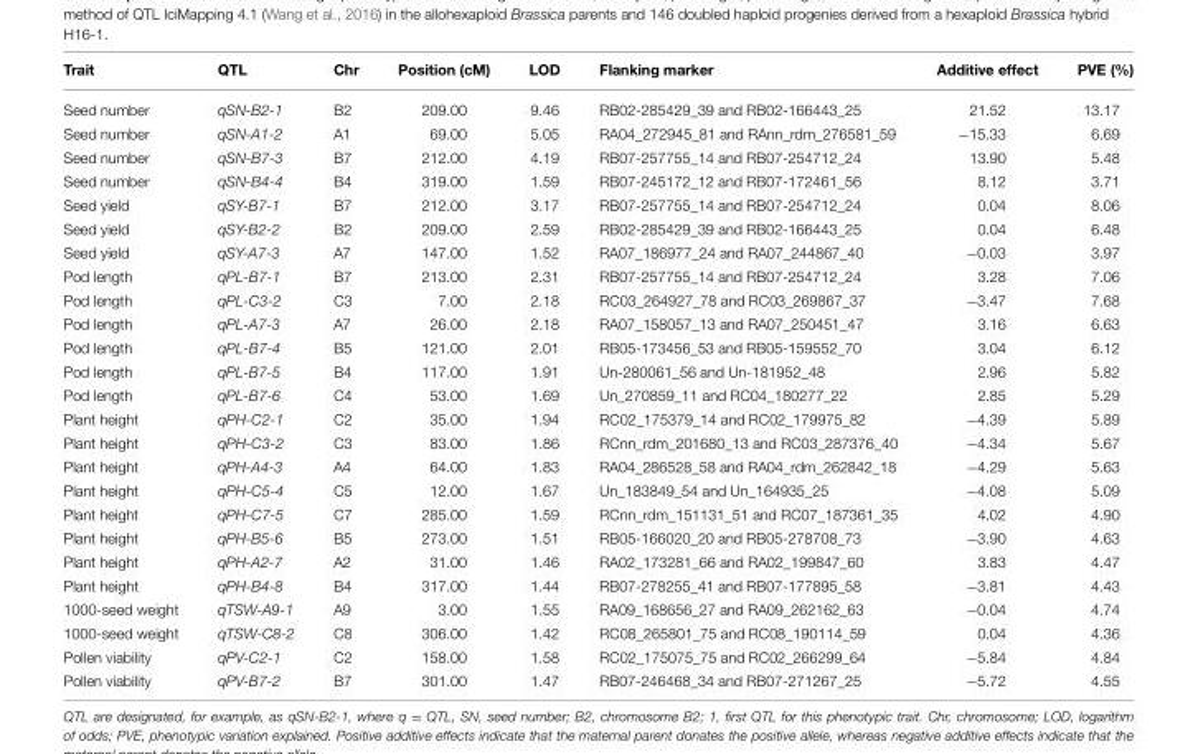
<table><thead><tr><td>Trait</td><td>QTL</td><td>Chr</td><td>Position (cM)</td><td>LOD</td><td>Flanking marker</td><td>Additive effect</td><td>PVE (%)</td></tr></thead><tbody><tr><td>Seed number</td><td>qSN-B2-1</td><td>B2</td><td>209.00</td><td>9.46</td><td>RB02-285429_39 and RB02-166443_25</td><td>21.52</td><td>13.17</td></tr><tr><td>Seed number</td><td>qSN-A1-2</td><td>A1</td><td>69.00</td><td>5.05</td><td>RA04_272945_81 and RAnn_rdm_276581_59</td><td>−15.33</td><td>6.69</td></tr><tr><td>Seed number</td><td>qSN-B7-3</td><td>B7</td><td>212.00</td><td>4.19</td><td>RB07-257755_14 and RB07-254712_24</td><td>13.90</td><td>5.48</td></tr><tr><td>Seed number</td><td>qSN-B4-4</td><td>B4</td><td>319.00</td><td>1.59</td><td>RB07-245172_12 and RB07-172461_56</td><td>8.12</td><td>3.71</td></tr><tr><td>Seed yield</td><td>qSY-B7-1</td><td>B7</td><td>212.00</td><td>3.17</td><td>RB07-257755_14 and RB07-254712_24</td><td>0.04</td><td>8.06</td></tr><tr><td>Seed yield</td><td>qSY-B2-2</td><td>B2</td><td>209.00</td><td>2.59</td><td>RB02-285429_39 and RB02-166443_25</td><td>0.04</td><td>6.48</td></tr><tr><td>Seed yield</td><td>qSY-A7-3</td><td>A7</td><td>147.00</td><td>1.52</td><td>RA07_186977_24 and RA07_244867_40</td><td>−0.03</td><td>3.97</td></tr><tr><td>Pod length</td><td>qPL-B7-1</td><td>B7</td><td>213.00</td><td>2.31</td><td>RB07-257755_14 and RB07-254712_24</td><td>3.28</td><td>7.06</td></tr><tr><td>Pod length</td><td>qPL-C3-2</td><td>C3</td><td>7.00</td><td>2.18</td><td>RC03_264927_78 and RC03_269867_37</td><td>−3.47</td><td>7.68</td></tr><tr><td>Pod length</td><td>qPL-A7-3</td><td>A7</td><td>26.00</td><td>2.18</td><td>RA07_158057_13 and RA07_250451_47</td><td>3.16</td><td>6.63</td></tr><tr><td>Pod length</td><td>qPL-B7-4</td><td>B5</td><td>121.00</td><td>2.01</td><td>RB05-173456_53 and RB05-159552_70</td><td>3.04</td><td>6.12</td></tr><tr><td>Pod length</td><td>qPL-B7-5</td><td>B4</td><td>117.00</td><td>1.91</td><td>Un-280061_56 and Un-181952_48</td><td>2.96</td><td>5.82</td></tr><tr><td>Pod length</td><td>qPL-B7-6</td><td>C4</td><td>53.00</td><td>1.69</td><td>Un_270859_11 and RC04_180277_22</td><td>2.85</td><td>5.29</td></tr><tr><td>Plant height</td><td>qPH-C2-1</td><td>C2</td><td>35.00</td><td>1.94</td><td>RC02_175379_14 and RC02_179975_82</td><td>−4.39</td><td>5.89</td></tr><tr><td>Plant height</td><td>qPH-C3-2</td><td>C3</td><td>83.00</td><td>1.86</td><td>RCnn_rdm_201680_13 and RC03_287376_40</td><td>−4.34</td><td>5.67</td></tr><tr><td>Plant height</td><td>qPH-A4-3</td><td>A4</td><td>64.00</td><td>1.83</td><td>RA04_286528_58 and RA04_rdm_262842_18</td><td>−4.29</td><td>5.63</td></tr><tr><td>Plant height</td><td>qPH-C5-4</td><td>C5</td><td>12.00</td><td>1.67</td><td>Un_183849_54 and Un_164935_25</td><td>−4.08</td><td>5.09</td></tr><tr><td>Plant height</td><td>qPH-C7-5</td><td>C7</td><td>285.00</td><td>1.59</td><td>RCnn_rdm_151131_51 and RC07_187361_35</td><td>4.02</td><td>4.90</td></tr><tr><td>Plant height</td><td>qPH-B5-6</td><td>B5</td><td>273.00</td><td>1.51</td><td>RB05-166020_20 and RB05-278708_73</td><td>−3.90</td><td>4.63</td></tr><tr><td>Plant height</td><td>qPH-A2-7</td><td>A2</td><td>31.00</td><td>1.46</td><td>RA02_173281_66 and RA02_199847_60</td><td>3.83</td><td>4.47</td></tr><tr><td>Plant height</td><td>qPH-B4-8</td><td>B4</td><td>317.00</td><td>1.44</td><td>RB07-278255_41 and RB07-177895_58</td><td>−3.81</td><td>4.43</td></tr><tr><td>1000-seed weight</td><td>qTSW-A9-1</td><td>A9</td><td>3.00</td><td>1.55</td><td>RA09_168656_27 and RA09_262162_63</td><td>−0.04</td><td>4.74</td></tr><tr><td>1000-seed weight</td><td>qTSW-C8-2</td><td>C8</td><td>306.00</td><td>1.42</td><td>RC08_265801_75 and RC08_190114_59</td><td>0.04</td><td>4.36</td></tr><tr><td>Pollen viability</td><td>qPV-C2-1</td><td>C2</td><td>158.00</td><td>1.58</td><td>RC02_175075_75 and RC02_266299_64</td><td>−5.84</td><td>4.84</td></tr><tr><td>Pollen viability</td><td>qPV-B7-2</td><td>B7</td><td>301.00</td><td>1.47</td><td>RB07-246468_34 and RB07-271267_25</td><td>−5.72</td><td>4.55</td></tr></tbody></table>